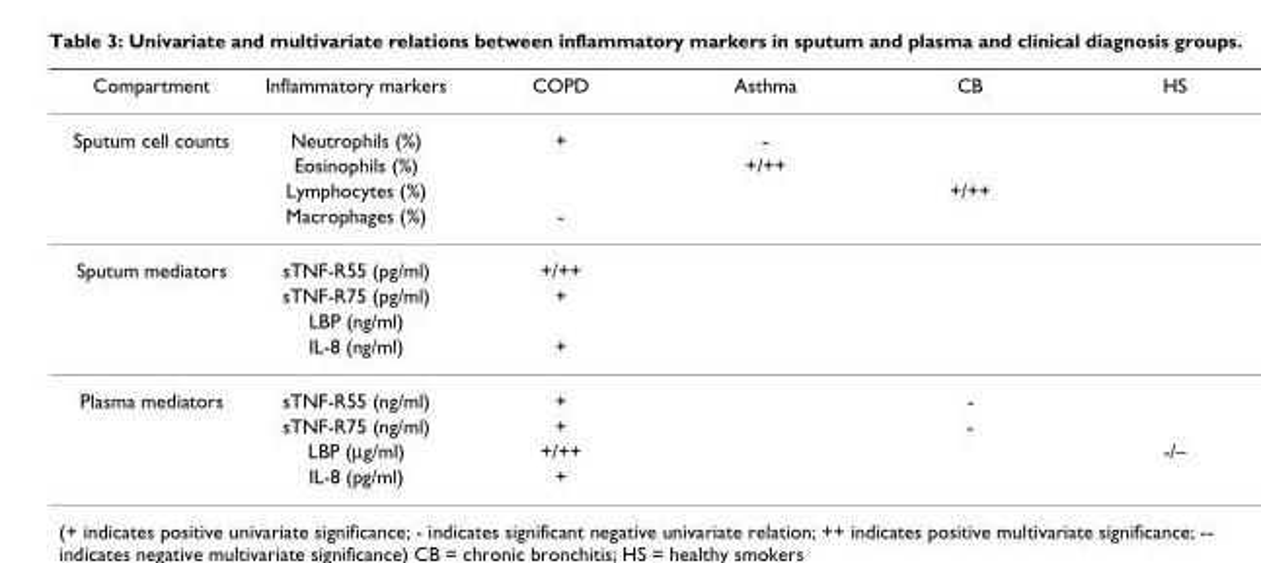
<table><thead><tr><td>Compartment</td><td>Inflammatory markers</td><td>COPD</td><td>Asthma</td><td>CB</td><td>HS</td></tr></thead><tbody><tr><td rowspan="4">Sputum cell counts</td><td>Neutrophils (%)</td><td>+</td><td>-</td><td></td><td></td></tr><tr><td>Eosinophils (%)</td><td></td><td>+/++</td><td></td><td></td></tr><tr><td>Lymphocytes (%)</td><td></td><td></td><td>+/++</td><td></td></tr><tr><td>Macrophages (%)</td><td>-</td><td></td><td></td><td></td></tr><tr><td rowspan="4">Sputum mediators</td><td>sTNF-R55 (pg/ml)</td><td>+/++</td><td></td><td></td><td></td></tr><tr><td>sTNF-R75 (pg/ml)</td><td>+</td><td></td><td></td><td></td></tr><tr><td>LBP (ng/ml)</td><td></td><td></td><td></td><td></td></tr><tr><td>IL-8 (ng/ml)</td><td>+</td><td></td><td></td><td></td></tr><tr><td rowspan="4">Plasma mediators</td><td>sTNF-R55 (ng/ml)</td><td>+</td><td></td><td>-</td><td></td></tr><tr><td>sTNF-R75 (ng/ml)</td><td>+</td><td></td><td>-</td><td></td></tr><tr><td>LBP (μg/ml)</td><td>+/++</td><td></td><td></td><td>-/–</td></tr><tr><td>IL-8 (pg/ml)</td><td>+</td><td></td><td></td><td></td></tr></tbody></table>